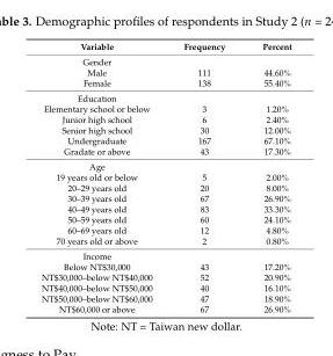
<table><thead><tr><td>Variable</td><td>Frequency</td><td>Percent</td></tr></thead><tbody><tr><td colspan="3">Gender</td></tr><tr><td>Male</td><td>111</td><td>44.60%</td></tr><tr><td>Female</td><td>138</td><td>55.40%</td></tr><tr><td colspan="3">Education</td></tr><tr><td>Elementary school or below</td><td>3</td><td>1.20%</td></tr><tr><td>Junior high school</td><td>6</td><td>2.40%</td></tr><tr><td>Senior high school</td><td>30</td><td>12.00%</td></tr><tr><td>Undergraduate</td><td>167</td><td>67.10%</td></tr><tr><td>Gradate or above</td><td>43</td><td>17.30%</td></tr><tr><td colspan="3">Age</td></tr><tr><td>19 years old or below</td><td>5</td><td>2.00%</td></tr><tr><td>20–29 years old</td><td>20</td><td>8.00%</td></tr><tr><td>30–39 years old</td><td>67</td><td>26.90%</td></tr><tr><td>40–49 years old</td><td>83</td><td>33.30%</td></tr><tr><td>50–59 years old</td><td>60</td><td>24.10%</td></tr><tr><td>60–69 years old</td><td>12</td><td>4.80%</td></tr><tr><td>70 years old or above</td><td>2</td><td>0.80%</td></tr><tr><td colspan="3">Income</td></tr><tr><td>Below NT$30,000</td><td>43</td><td>17.20%</td></tr><tr><td>NT$30,000–below NT$40,000</td><td>52</td><td>20.90%</td></tr><tr><td>NT$40,000–below NT$50,000</td><td>40</td><td>16.10%</td></tr><tr><td>NT$50,000–below NT$60,000</td><td>47</td><td>18.90%</td></tr><tr><td>NT$60,000 or above</td><td>67</td><td>26.90%</td></tr></tbody></table>